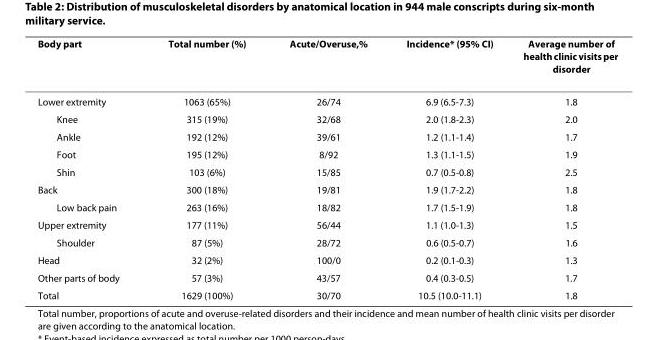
<table><thead><tr><td>Body part</td><td>Total number (%)</td><td>Acute/Overuse,%</td><td>Incidence* (95% CI)</td><td>Average number of health clinic visits per disorder</td></tr></thead><tbody><tr><td>Lower extremity</td><td>1063 (65%)</td><td>26/74</td><td>6.9 (6.5-7.3)</td><td>1.8</td></tr><tr><td>Knee</td><td>315 (19%)</td><td>32/68</td><td>2.0 (1.8-2.3)</td><td>2.0</td></tr><tr><td>Ankle</td><td>192 (12%)</td><td>39/61</td><td>1.2 (1.1-1.4)</td><td>1.7</td></tr><tr><td>Foot</td><td>195 (12%)</td><td>8/92</td><td>1.3 (1.1-1.5)</td><td>1.9</td></tr><tr><td>Shin</td><td>103 (6%)</td><td>15/85</td><td>0.7 (0.5-0.8)</td><td>2.5</td></tr><tr><td>Back</td><td>300 (18%)</td><td>19/81</td><td>1.9 (1.7-2.2)</td><td>1.8</td></tr><tr><td>Low back pain</td><td>263 (16%)</td><td>18/82</td><td>1.7 (1.5-1.9)</td><td>1.8</td></tr><tr><td>Upper extremity</td><td>177 (11%)</td><td>56/44</td><td>1.1 (1.0-1.3)</td><td>1.5</td></tr><tr><td>Shoulder</td><td>87 (5%)</td><td>28/72</td><td>0.6 (0.5-0.7)</td><td>1.6</td></tr><tr><td>Head</td><td>32 (2%)</td><td>100/0</td><td>0.2 (0.1-0.3)</td><td>1.3</td></tr><tr><td>Other parts of body</td><td>57 (3%)</td><td>43/57</td><td>0.4 (0.3-0.5)</td><td>1.7</td></tr><tr><td>Total</td><td>1629 (100%)</td><td>30/70</td><td>10.5 (10.0-11.1)</td><td>1.8</td></tr></tbody></table>